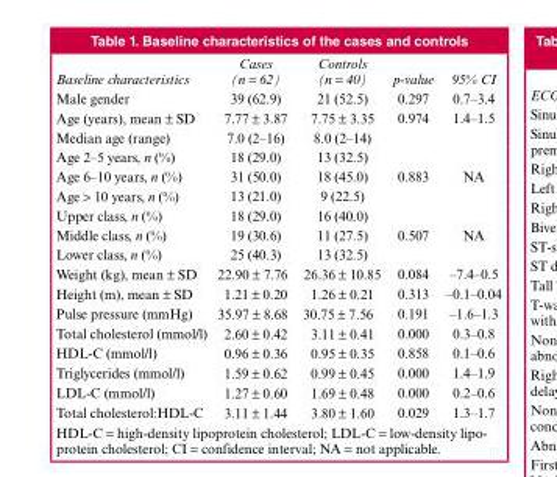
<table><thead><tr><td>Baseline characteristics</td><td>Cases (n = 62)</td><td>Controls (n = 40)</td><td>p-value</td><td>95% CI</td></tr></thead><tbody><tr><td>Male gender</td><td>39 (62.9)</td><td>21 (52.5)</td><td>0.297</td><td>0.7–3.4</td></tr><tr><td>Age (years), mean ± SD</td><td>7.77 ± 3.87</td><td>7.75 ± 3.35</td><td>0.974</td><td>1.4–1.5</td></tr><tr><td>Median age (range)</td><td>7.0 (2–16)</td><td>8.0 (2–14)</td><td></td><td></td></tr><tr><td>Age 2–5 years, n (%)</td><td>18 (29.0)</td><td>13 (32.5)</td><td></td><td></td></tr><tr><td>Age 6–10 years, n (%)</td><td>31 (50.0)</td><td>18 (45.0)</td><td>0.883</td><td>NA</td></tr><tr><td>Age &gt; 10 years, n (%)</td><td>13 (21.0)</td><td>9 (22.5)</td><td></td><td></td></tr><tr><td>Upper class, n (%)</td><td>18 (29.0)</td><td>16 (40.0)</td><td></td><td></td></tr><tr><td>Middle class, n (%)</td><td>19 (30.6)</td><td>11 (27.5)</td><td>0.507</td><td>NA</td></tr><tr><td>Lower class, n (%)</td><td>25 (40.3)</td><td>13 (32.5)</td><td></td><td></td></tr><tr><td>Weight (kg), mean ± SD</td><td>22.90 ± 7.76</td><td>26.36 ± 10.85</td><td>0.084</td><td>–7.4–0.5</td></tr><tr><td>Height (m), mean ± SD</td><td>1.21 ± 0.20</td><td>1.26 ± 0.21</td><td>0.313</td><td>–0.1–0.04</td></tr><tr><td>Pulse pressure (mmHg)</td><td>35.97 ± 8.68</td><td>30.75 ± 7.56</td><td>0.191</td><td>–1.6–1.3</td></tr><tr><td>Total cholesterol (mmol/l)</td><td>2.60 ± 0.42</td><td>3.11 ± 0.41</td><td>0.000</td><td>0.3–0.8</td></tr><tr><td>HDL-C (mmol/l)</td><td>0.96 ± 0.36</td><td>0.95 ± 0.35</td><td>0.858</td><td>0.1–0.6</td></tr><tr><td>Triglycerides (mmol/l)</td><td>1.59 ± 0.62</td><td>0.99 ± 0.45</td><td>0.000</td><td>1.4–1.9</td></tr><tr><td>LDL-C (mmol/l)</td><td>1.27 ± 0.60</td><td>1.69 ± 0.48</td><td>0.000</td><td>0.2–0.6</td></tr><tr><td>Total cholesterol:HDL-C</td><td>3.11 ± 1.44</td><td>3.80 ± 1.60</td><td>0.029</td><td>1.3–1.7</td></tr></tbody></table>